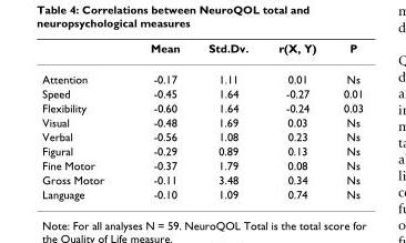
<table><thead><tr><td></td><td>Mean</td><td>Std.Dv.</td><td>r(X, Y)</td><td>P</td></tr></thead><tbody><tr><td>Attention</td><td>-0.17</td><td>1.11</td><td>0.01</td><td>Ns</td></tr><tr><td>Speed</td><td>-0.45</td><td>1.64</td><td>-0.27</td><td>0.01</td></tr><tr><td>Flexibility</td><td>-0.60</td><td>1.64</td><td>-0.24</td><td>0.03</td></tr><tr><td>Visual</td><td>-0.48</td><td>1.69</td><td>0.03</td><td>Ns</td></tr><tr><td>Verbal</td><td>-0.56</td><td>1.08</td><td>0.23</td><td>Ns</td></tr><tr><td>Figural</td><td>-0.29</td><td>0.89</td><td>0.13</td><td>Ns</td></tr><tr><td>Fine Motor</td><td>-0.37</td><td>1.79</td><td>0.08</td><td>Ns</td></tr><tr><td>Gross Motor</td><td>-0.11</td><td>3.48</td><td>0.34</td><td>Ns</td></tr><tr><td>Language</td><td>-0.10</td><td>1.09</td><td>0.74</td><td>Ns</td></tr></tbody></table>